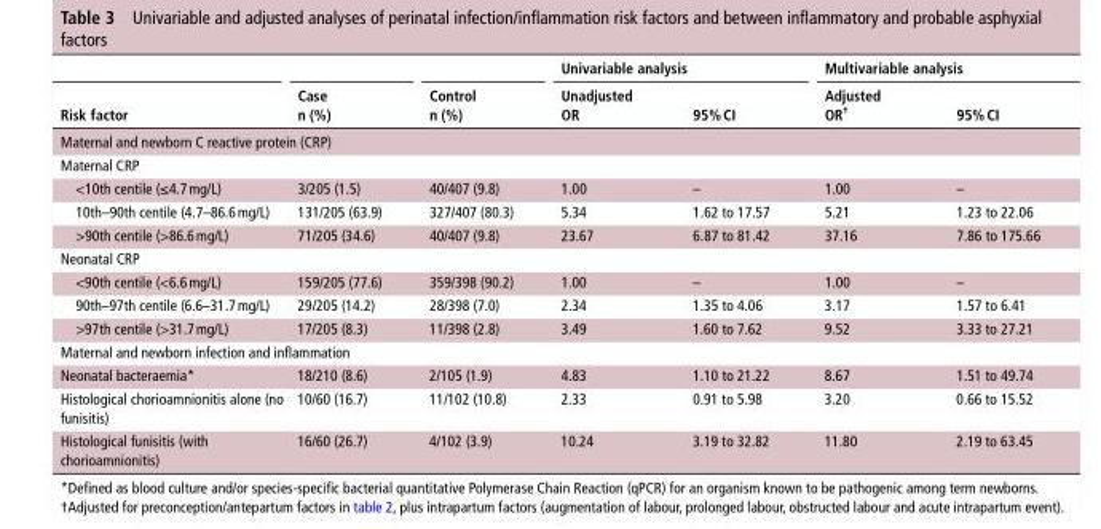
<table><thead><tr><td rowspan="2">Risk factor</td><td rowspan="2">Case n (%)</td><td rowspan="2">Control n (%)</td><td colspan="2">univariable analysis</td><td colspan="2">Multivariable analysis</td></tr><tr><td>unadjusted OR</td><td>95% CI</td><td>Adjusted OR<sup>†</sup></td><td>95% CI</td></tr></thead><tbody><tr><td colspan="7">Maternal and newborn C reactive protein (CRP)</td></tr><tr><td colspan="7">Maternal CRP</td></tr><tr><td>&lt;10th centile (≤4.7 mg/L)</td><td>3/205 (1.5)</td><td>40/407 (9.8)</td><td>1.00</td><td>–</td><td>1.00</td><td>–</td></tr><tr><td>10th–90th centile (4.7–86.6 mg/L)</td><td>131/205 (63.9)</td><td>327/407 (80.3)</td><td>5.34</td><td>1.62 to 17.57</td><td>5.21</td><td>1.23 to 22.06</td></tr><tr><td>&gt;90th centile (&gt;86.6 mg/L)</td><td>71/205 (34.6)</td><td>40/407 (9.8)</td><td>23.67</td><td>6.87 to 81.42</td><td>37.16</td><td>7.86 to 175.66</td></tr><tr><td colspan="7">Neonatal CRP</td></tr><tr><td>&lt;90th centile (&lt;6.6 mg/L)</td><td>159/205 (77.6)</td><td>359/398 (90.2)</td><td>1.00</td><td>–</td><td>1.00</td><td>–</td></tr><tr><td>90th–97th centile (6.6–31.7 mg/L)</td><td>29/205 (14.2)</td><td>28/398 (7.0)</td><td>2.34</td><td>1.35 to 4.06</td><td>3.17</td><td>1.57 to 6.41</td></tr><tr><td>&gt;97th centile (&gt;31.7 mg/L)</td><td>17/205 (8.3)</td><td>11/398 (2.8)</td><td>3.49</td><td>1.60 to 7.62</td><td>9.52</td><td>3.33 to 27.21</td></tr><tr><td colspan="7">Maternal and newborn infection and inflammation</td></tr><tr><td>Neonatal bacteraemia*</td><td>18/210 (8.6)</td><td>2/105 (1.9)</td><td>4.83</td><td>1.10 to 21.22</td><td>8.67</td><td>1.51 to 49.74</td></tr><tr><td>Histological chorioamnionitis alone (no funisitis)</td><td>10/60 (16.7)</td><td>11/102 (10.8)</td><td>2.33</td><td>0.91 to 5.98</td><td>3.20</td><td>0.66 to 15.52</td></tr><tr><td>Histological funisitis (with chorioamnionitis)</td><td>16/60 (26.7)</td><td>4/102 (3.9)</td><td>10.24</td><td>3.19 to 32.82</td><td>11.80</td><td>2.19 to 63.45</td></tr></tbody></table>